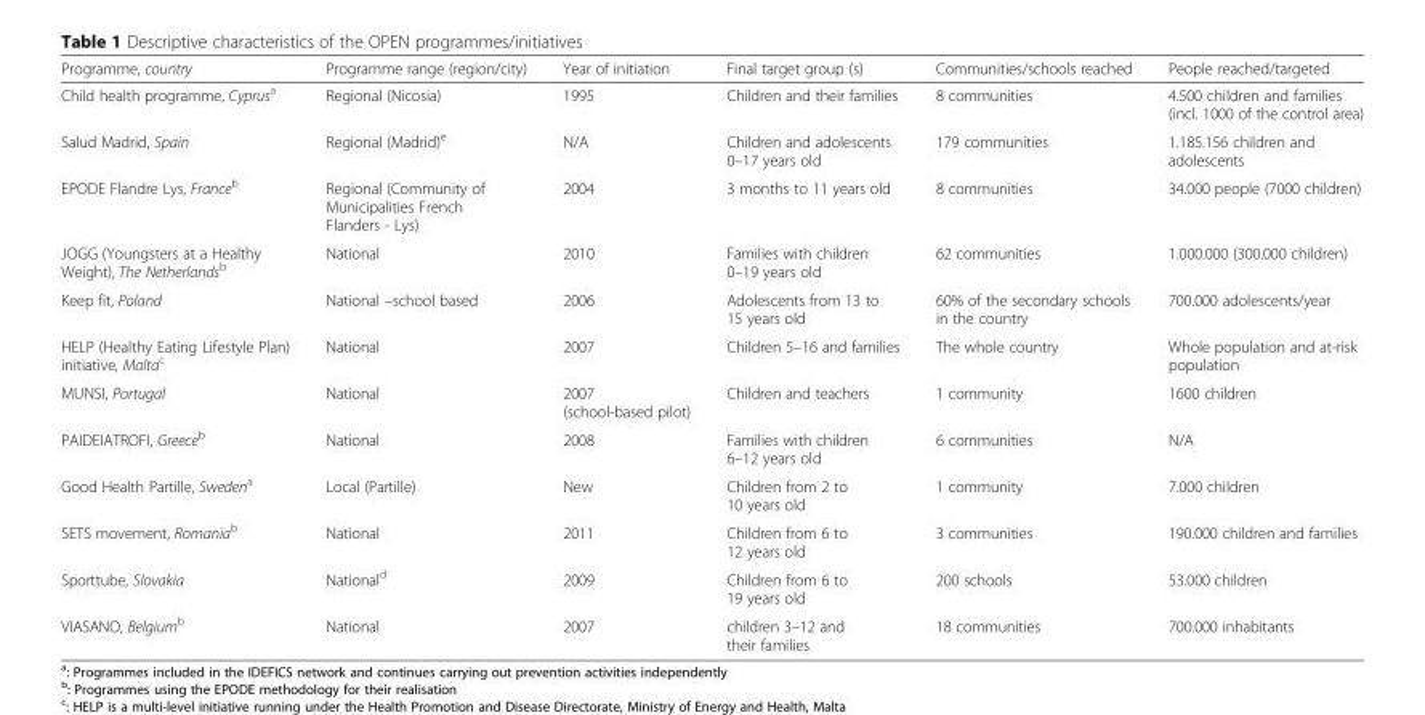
<table><thead><tr><td>Programme, country</td><td>Programme range (region/city)</td><td>Year of initiation</td><td>Final target group (s)</td><td>Communities/schools reached</td><td>People reached/targeted</td></tr></thead><tbody><tr><td>Child health programme, Cyprus<sup>a</sup></td><td>Regional (Nicosia)</td><td>1995</td><td>Children and their families</td><td>8 communities</td><td>4.500 children and families (incl. 1000 of the control area)</td></tr><tr><td>Salud Madrid, Spain</td><td>Regional (Madrid)<sup>e</sup></td><td>N/A</td><td>Children and adolescents 0–17 years old</td><td>179 communities</td><td>1.185.156 children and adolescents</td></tr><tr><td>EPODE Flandre Lys, France<sup>b</sup></td><td>Regional (Community of Municipalities French Flanders - Lys)</td><td>2004</td><td>3 months to 11 years old</td><td>8 communities</td><td>34.000 people (7000 children)</td></tr><tr><td>JOGG (Youngsters at a Healthy Weight), The Netherlands<sup>b</sup></td><td>National</td><td>2010</td><td>Families with children 0–19 years old</td><td>62 communities</td><td>1.000.000 (300.000 children)</td></tr><tr><td>Keep fit, Poland</td><td>National –school based</td><td>2006</td><td>Adolescents from 13 to 15 years old</td><td>60% of the secondary schools in the country</td><td>700.000 adolescents/year</td></tr><tr><td>HELP (Healthy Eating Lifestyle Plan) initiative, Malta<sup>c</sup></td><td>National</td><td>2007</td><td>Children 5–16 and families</td><td>The whole country</td><td>Whole population and at-risk population</td></tr><tr><td>MUNSI, Portugal</td><td>National</td><td>2007 (school-based pilot)</td><td>Children and teachers</td><td>1 community</td><td>1600 children</td></tr><tr><td>PAIDEIATROFI, Greece<sup>b</sup></td><td>National</td><td>2008</td><td>Families with children 6–12 years old</td><td>6 communities</td><td>N/A</td></tr><tr><td>Good Health Partille, Sweden<sup>a</sup></td><td>Local (Partille)</td><td>New</td><td>Children from 2 to 10 years old</td><td>1 community</td><td>7.000 children</td></tr><tr><td>SETS movement, Romania<sup>b</sup></td><td>National</td><td>2011</td><td>Children from 6 to 12 years old</td><td>3 communities</td><td>190.000 children and families</td></tr><tr><td>Sporttube, Slovakia</td><td>National<sup>d</sup></td><td>2009</td><td>Children from 6 to 19 years old</td><td>200 schools</td><td>53.000 children</td></tr><tr><td>VIASANO, Belgium<sup>b</sup></td><td>National</td><td>2007</td><td>children 3–12 and their families</td><td>18 communities</td><td>700.000 inhabitants</td></tr></tbody></table>